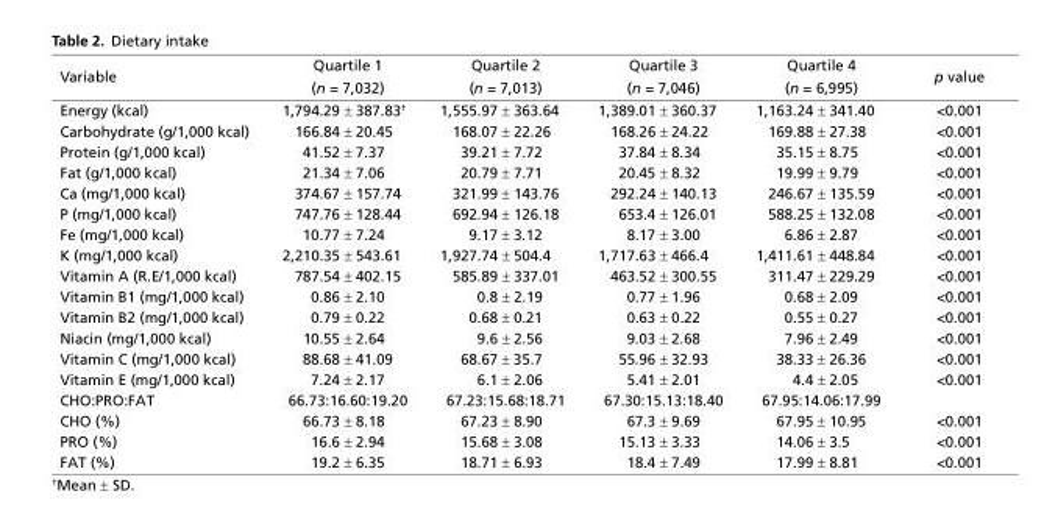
<table><thead><tr><td rowspan="2">Variable</td><td rowspan="2">Quartile 1 (n = 7,032)</td><td rowspan="2">Quartile 2 (n = 7,013)</td><td rowspan="2">Quartile 3 (n = 7,046)</td><td rowspan="2">Quartile 4 (n = 6,995)</td><td rowspan="2">p value</td></tr><tr></tr></thead><tbody><tr><td>Energy (kcal)</td><td>1,794.29 ± 387.83<sup>†</sup></td><td>1,555.97 ± 363.64</td><td>1,389.01 ± 360.37</td><td>1,163.24 ± 341.40</td><td>&lt;0.001</td></tr><tr><td>Carbohydrate (g/1,000 kcal)</td><td>166.84 ± 20.45</td><td>168.07 ± 22.26</td><td>168.26 ± 24.22</td><td>169.88 ± 27.38</td><td>&lt;0.001</td></tr><tr><td>Protein (g/1,000 kcal)</td><td>41.52 ± 7.37</td><td>39.21 ± 7.72</td><td>37.84 ± 8.34</td><td>35.15 ± 8.75</td><td>&lt;0.001</td></tr><tr><td>Fat (g/1,000 kcal)</td><td>21.34 ± 7.06</td><td>20.79 ± 7.71</td><td>20.45 ± 8.32</td><td>19.99 ± 9.79</td><td>&lt;0.001</td></tr><tr><td>Ca (mg/1,000 kcal)</td><td>374.67 ± 157.74</td><td>321.99 ± 143.76</td><td>292.24 ± 140.13</td><td>246.67 ± 135.59</td><td>&lt;0.001</td></tr><tr><td>P (mg/1,000 kcal)</td><td>747.76 ± 128.44</td><td>692.94 ± 126.18</td><td>653.4 ± 126.01</td><td>588.25 ± 132.08</td><td>&lt;0.001</td></tr><tr><td>Fe (mg/1,000 kcal)</td><td>10.77 ± 7.24</td><td>9.17 ± 3.12</td><td>8.17 ± 3.00</td><td>6.86 ± 2.87</td><td>&lt;0.001</td></tr><tr><td>K (mg/1,000 kcal)</td><td>2,210.35 ± 543.61</td><td>1,927.74 ± 504.4</td><td>1,717.63 ± 466.4</td><td>1,411.61 ± 448.84</td><td>&lt;0.001</td></tr><tr><td>Vitamin A (R.E/1,000 kcal)</td><td>787.54 ± 402.15</td><td>585.89 ± 337.01</td><td>463.52 ± 300.55</td><td>311.47 ± 229.29</td><td>&lt;0.001</td></tr><tr><td>Vitamin B1 (mg/1,000 kcal)</td><td>0.86 ± 2.10</td><td>0.8 ± 2.19</td><td>0.77 ± 1.96</td><td>0.68 ± 2.09</td><td>&lt;0.001</td></tr><tr><td>Vitamin B2 (mg/1,000 kcal)</td><td>0.79 ± 0.22</td><td>0.68 ± 0.21</td><td>0.63 ± 0.22</td><td>0.55 ± 0.27</td><td>&lt;0.001</td></tr><tr><td>Niacin (mg/1,000 kcal)</td><td>10.55 ± 2.64</td><td>9.6 ± 2.56</td><td>9.03 ± 2.68</td><td>7.96 ± 2.49</td><td>&lt;0.001</td></tr><tr><td>Vitamin C (mg/1,000 kcal)</td><td>88.68 ± 41.09</td><td>68.67 ± 35.7</td><td>55.96 ± 32.93</td><td>38.33 ± 26.36</td><td>&lt;0.001</td></tr><tr><td>Vitamin E (mg/1,000 kcal)</td><td>7.24 ± 2.17</td><td>6.1 ± 2.06</td><td>5.41 ± 2.01</td><td>4.4 ± 2.05</td><td>&lt;0.001</td></tr><tr><td>CHO:PRO:FAT</td><td>66.73:16.60:19.20</td><td>67.23:15.68:18.71</td><td>67.30:15.13:18.40</td><td>67.95:14.06:17.99</td><td></td></tr><tr><td>CHO (%)</td><td>66.73 ± 8.18</td><td>67.23 ± 8.90</td><td>67.3 ± 9.69</td><td>67.95 ± 10.95</td><td>&lt;0.001</td></tr><tr><td>PRO (%)</td><td>16.6 ± 2.94</td><td>15.68 ± 3.08</td><td>15.13 ± 3.33</td><td>14.06 ± 3.5</td><td>&lt;0.001</td></tr><tr><td>FAT (%)</td><td>19.2 ± 6.35</td><td>18.71 ± 6.93</td><td>18.4 ± 7.49</td><td>17.99 ± 8.81</td><td>&lt;0.001</td></tr></tbody></table>